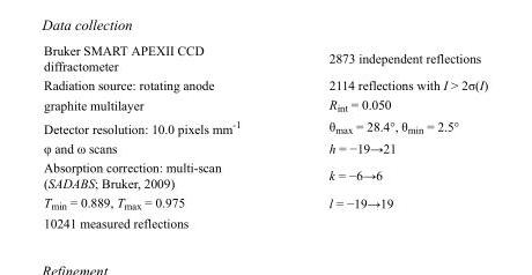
<table><tbody><tr><td>Bruker SMART APEXII CCD diffractometer</td><td>2873 independent reflections</td></tr><tr><td>Radiation source: rotating anode</td><td>2114 reflections with I &gt; 2σ(I)</td></tr><tr><td>graphite multilayer</td><td>R<sub>int</sub> = 0.050</td></tr><tr><td>Detector resolution: 10.0 pixels mm<sup>-1</sup></td><td>θ<sub>max</sub> = 28.4°, θ<sub>min</sub> = 2.5°</td></tr><tr><td>φ and ω scans</td><td>h = −19→21</td></tr><tr><td>Absorption correction: multi-scan (SADABS; Bruker, 2009)</td><td>k = −6→6</td></tr><tr><td>T<sub>min</sub> = 0.889, T<sub>max</sub> = 0.975</td><td>l = −19→19</td></tr><tr><td>10241 measured reflections</td><td></td></tr></tbody></table>